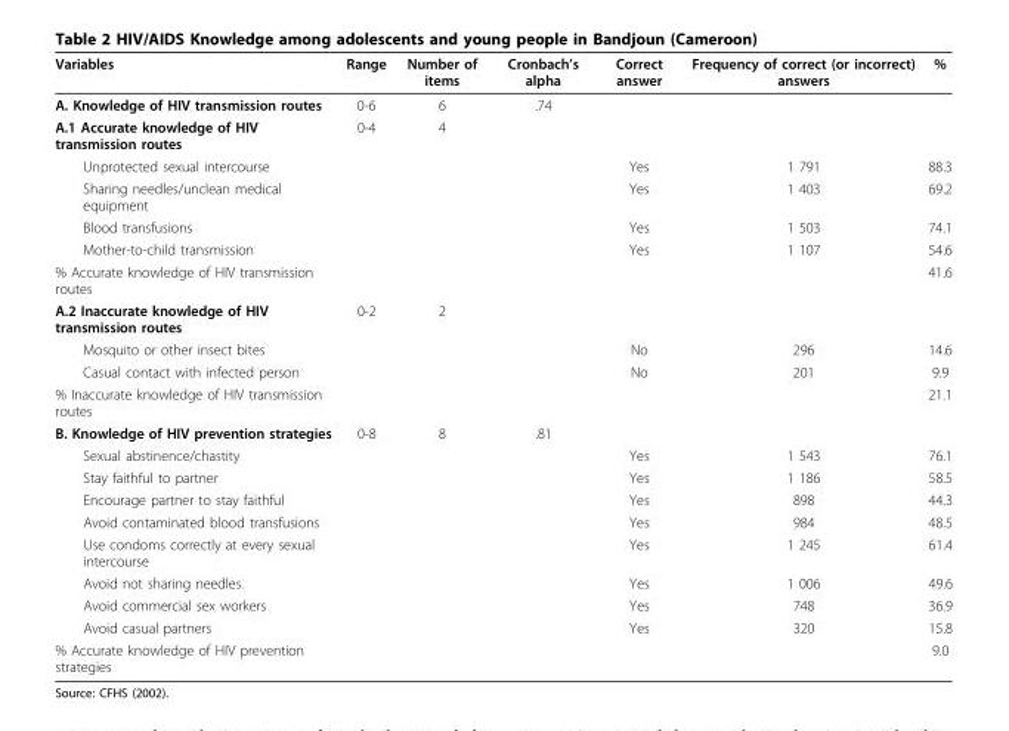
<table><thead><tr><td>Variables</td><td>Range</td><td>Number of items</td><td>Cronbach’s alpha</td><td>Correct answer</td><td>Frequency of correct (or incorrect) answers</td><td>%</td></tr></thead><tbody><tr><td>A. Knowledge of HIV transmission routes</td><td>0-6</td><td>6</td><td>.74</td><td></td><td></td><td></td></tr><tr><td>A.1 Accurate knowledge of HIV transmission routes</td><td>0-4</td><td>4</td><td></td><td></td><td></td><td></td></tr><tr><td>Unprotected sexual intercourse</td><td></td><td></td><td></td><td>Yes</td><td>1 791</td><td>88.3</td></tr><tr><td>Sharing needles/unclean medical equipment</td><td></td><td></td><td></td><td>Yes</td><td>1 403</td><td>69.2</td></tr><tr><td>Blood transfusions</td><td></td><td></td><td></td><td>Yes</td><td>1 503</td><td>74.1</td></tr><tr><td>Mother-to-child transmission</td><td></td><td></td><td></td><td>Yes</td><td>1 107</td><td>54.6</td></tr><tr><td>% Accurate knowledge of HIV transmission routes</td><td></td><td></td><td></td><td></td><td></td><td>41.6</td></tr><tr><td>A.2 Inaccurate knowledge of HIV transmission routes</td><td>0-2</td><td>2</td><td></td><td></td><td></td><td></td></tr><tr><td>Mosquito or other insect bites</td><td></td><td></td><td></td><td>No</td><td>296</td><td>14.6</td></tr><tr><td>Casual contact with infected person</td><td></td><td></td><td></td><td>No</td><td>201</td><td>9.9</td></tr><tr><td>% Inaccurate knowledge of HIV transmission routes</td><td></td><td></td><td></td><td></td><td></td><td>21.1</td></tr><tr><td>B. Knowledge of HIV prevention strategies</td><td>0-8</td><td>8</td><td>.81</td><td></td><td></td><td></td></tr><tr><td>Sexual abstinence/chastity</td><td></td><td></td><td></td><td>Yes</td><td>1 543</td><td>76.1</td></tr><tr><td>Stay faithful to partner</td><td></td><td></td><td></td><td>Yes</td><td>1 186</td><td>58.5</td></tr><tr><td>Encourage partner to stay faithful</td><td></td><td></td><td></td><td>Yes</td><td>898</td><td>44.3</td></tr><tr><td>Avoid contaminated blood transfusions</td><td></td><td></td><td></td><td>Yes</td><td>984</td><td>48.5</td></tr><tr><td>Use condoms correctly at every sexual intercourse</td><td></td><td></td><td></td><td>Yes</td><td>1 245</td><td>61.4</td></tr><tr><td>Avoid not sharing needles</td><td></td><td></td><td></td><td>Yes</td><td>1 006</td><td>49.6</td></tr><tr><td>Avoid commercial sex workers</td><td></td><td></td><td></td><td>Yes</td><td>748</td><td>36.9</td></tr><tr><td>Avoid casual partners</td><td></td><td></td><td></td><td>Yes</td><td>320</td><td>15.8</td></tr><tr><td>% Accurate knowledge of HIV prevention strategies</td><td></td><td></td><td></td><td></td><td></td><td>9.0</td></tr></tbody></table>